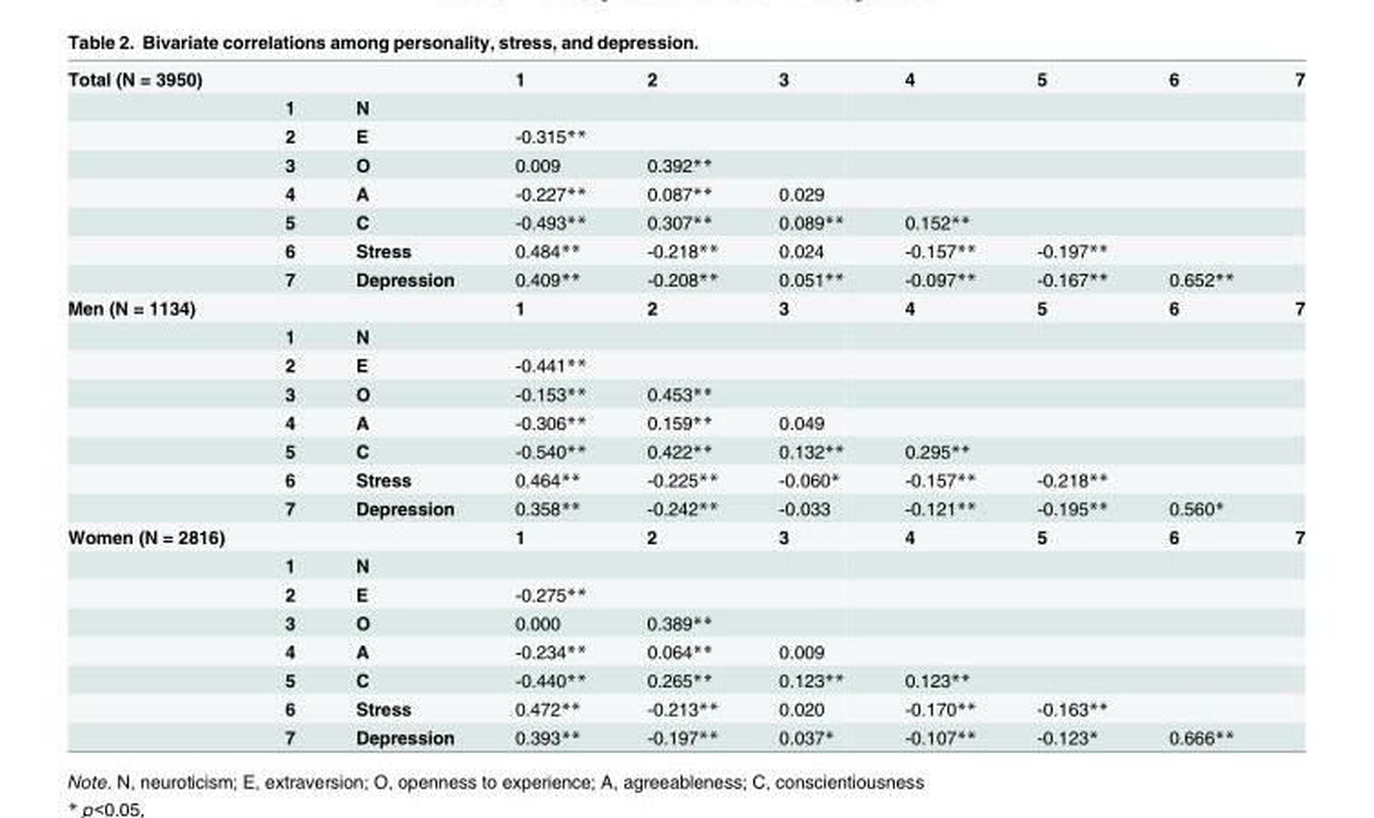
<table><tbody><tr><td rowspan="8">Total (N = 3950)</td><td></td><td></td><td>1</td><td>2</td><td>3</td><td>4</td><td>5</td><td>6</td><td>7</td></tr><tr><td>1</td><td>N</td><td></td><td></td><td></td><td></td><td></td><td></td><td></td></tr><tr><td>2</td><td>E</td><td>-0.315**</td><td></td><td></td><td></td><td></td><td></td><td></td></tr><tr><td>3</td><td>O</td><td>0.009</td><td>0.392**</td><td></td><td></td><td></td><td></td><td></td></tr><tr><td>4</td><td>A</td><td>-0.227**</td><td>0.087**</td><td>0.029</td><td></td><td></td><td></td><td></td></tr><tr><td>5</td><td>C</td><td>-0.493**</td><td>0.307**</td><td>0.089**</td><td>0.152**</td><td></td><td></td><td></td></tr><tr><td>6</td><td>Stress</td><td>0.484**</td><td>-0.218**</td><td>0.024</td><td>-0.157**</td><td>-0.197**</td><td></td><td></td></tr><tr><td>7</td><td>Depression</td><td>0.409**</td><td>-0.208**</td><td>0.051**</td><td>-0.097**</td><td>-0.167**</td><td>0.652**</td><td></td></tr><tr><td rowspan="8">Men (N = 1134)</td><td></td><td></td><td>1</td><td>2</td><td>3</td><td>4</td><td>5</td><td>6</td><td>7</td></tr><tr><td>1</td><td>N</td><td></td><td></td><td></td><td></td><td></td><td></td><td></td></tr><tr><td>2</td><td>E</td><td>-0.441**</td><td></td><td></td><td></td><td></td><td></td><td></td></tr><tr><td>3</td><td>O</td><td>-0.153**</td><td>0.453**</td><td></td><td></td><td></td><td></td><td></td></tr><tr><td>4</td><td>A</td><td>-0.306**</td><td>0.159**</td><td>0.049</td><td></td><td></td><td></td><td></td></tr><tr><td>5</td><td>C</td><td>-0.540**</td><td>0.422**</td><td>0.132**</td><td>0.295**</td><td></td><td></td><td></td></tr><tr><td>6</td><td>Stress</td><td>0.464**</td><td>-0.225**</td><td>-0.060*</td><td>-0.157**</td><td>-0.218**</td><td></td><td></td></tr><tr><td>7</td><td>Depression</td><td>0.358**</td><td>-0.242**</td><td>-0.033</td><td>-0.121**</td><td>-0.195**</td><td>0.560*</td><td></td></tr><tr><td rowspan="8">Women (N = 2816)</td><td></td><td></td><td>1</td><td>2</td><td>3</td><td>4</td><td>5</td><td>6</td><td>7</td></tr><tr><td>1</td><td>N</td><td></td><td></td><td></td><td></td><td></td><td></td><td></td></tr><tr><td>2</td><td>E</td><td>-0.275**</td><td></td><td></td><td></td><td></td><td></td><td></td></tr><tr><td>3</td><td>O</td><td>0.000</td><td>0.389**</td><td></td><td></td><td></td><td></td><td></td></tr><tr><td>4</td><td>A</td><td>-0.234**</td><td>0.064**</td><td>0.009</td><td></td><td></td><td></td><td></td></tr><tr><td>5</td><td>C</td><td>-0.440**</td><td>0.265**</td><td>0.123**</td><td>0.123**</td><td></td><td></td><td></td></tr><tr><td>6</td><td>Stress</td><td>0.472**</td><td>-0.213**</td><td>0.020</td><td>-0.170**</td><td>-0.163**</td><td></td><td></td></tr><tr><td>7</td><td>Depression</td><td>0.393**</td><td>-0.197**</td><td>0.037*</td><td>-0.107**</td><td>-0.123*</td><td>0.666**</td><td></td></tr></tbody></table>